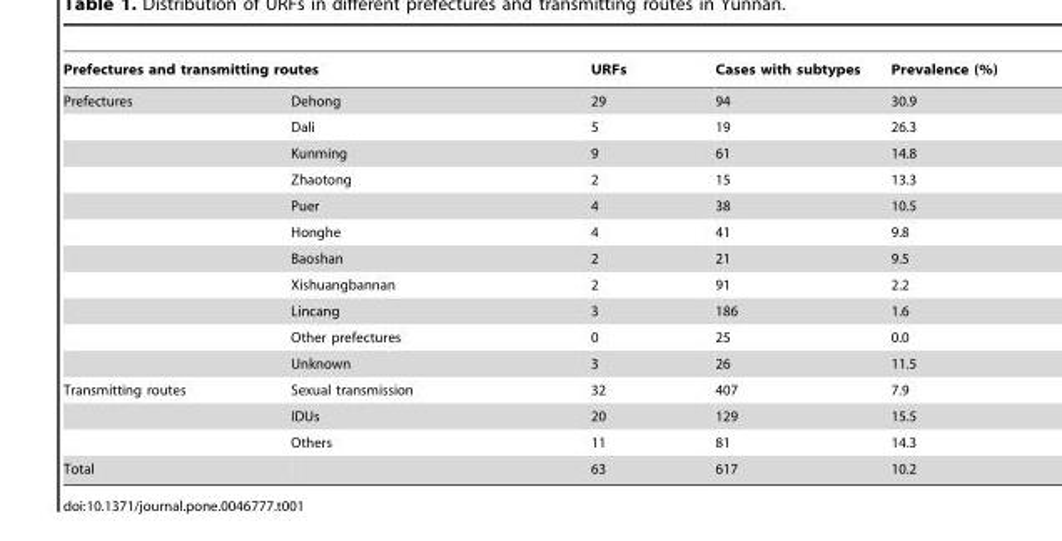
<table><thead><tr><td colspan="2">Prefectures and transmitting routes</td><td rowspan="2">URFs 29</td><td rowspan="2">Cases with subtypes 94</td><td rowspan="2">Prevalence (%) 30.9</td></tr><tr><td>Prefectures</td><td>Dehong</td></tr></thead><tbody><tr><td></td><td>Dali</td><td>5</td><td>19</td><td>26.3</td></tr><tr><td></td><td>Kunming</td><td>9</td><td>61</td><td>14.8</td></tr><tr><td></td><td>Zhaotong</td><td>2</td><td>15</td><td>13.3</td></tr><tr><td></td><td>Puer</td><td>4</td><td>38</td><td>10.5</td></tr><tr><td></td><td>Honghe</td><td>4</td><td>41</td><td>9.8</td></tr><tr><td></td><td>Baoshan</td><td>2</td><td>21</td><td>9.5</td></tr><tr><td></td><td>Xishuangbannan</td><td>2</td><td>91</td><td>2.2</td></tr><tr><td></td><td>Lincang</td><td>3</td><td>186</td><td>1.6</td></tr><tr><td></td><td>Other prefectures</td><td>0</td><td>25</td><td>0.0</td></tr><tr><td></td><td>Unknown</td><td>3</td><td>26</td><td>11.5</td></tr><tr><td rowspan="3">Transmitting routes</td><td>Sexual transmission</td><td>32</td><td>407</td><td>7.9</td></tr><tr><td>IDUs</td><td>20</td><td>129</td><td>15.5</td></tr><tr><td>Others</td><td>11</td><td>81</td><td>14.3</td></tr><tr><td>Total</td><td></td><td>63</td><td>617</td><td>10.2</td></tr></tbody></table>